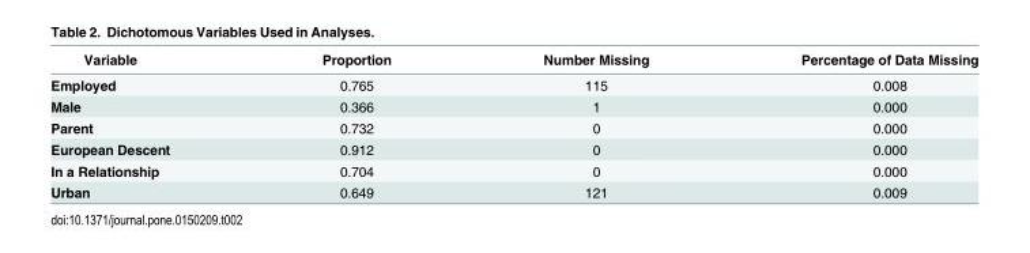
<table><thead><tr><td>Variable</td><td>Proportion</td><td>Number Missing</td><td>Percentage of Data Missing</td></tr></thead><tbody><tr><td>Employed</td><td>0.765</td><td>115</td><td>0.008</td></tr><tr><td>Male</td><td>0.366</td><td>1</td><td>0.000</td></tr><tr><td>Parent</td><td>0.732</td><td>0</td><td>0.000</td></tr><tr><td>European Descent</td><td>0.912</td><td>0</td><td>0.000</td></tr><tr><td>In a Relationship</td><td>0.704</td><td>0</td><td>0.000</td></tr><tr><td>Urban</td><td>0.649</td><td>121</td><td>0.009</td></tr></tbody></table>